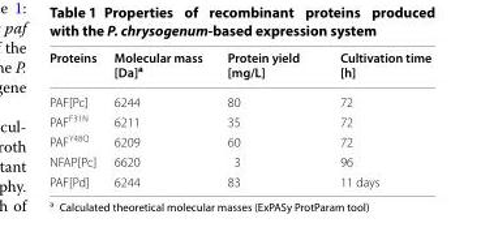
<table><thead><tr><td>Proteins</td><td>Molecular mass [Da]<sup>a</sup></td><td>Protein yield [mg/L]</td><td>Cultivation time [h]</td></tr></thead><tbody><tr><td>PAF[Pc]</td><td>6244</td><td>80</td><td>72</td></tr><tr><td>PAF<sup>F31N</sup></td><td>6211</td><td>35</td><td>72</td></tr><tr><td>PAF<sup>Y48Q</sup></td><td>6209</td><td>60</td><td>72</td></tr><tr><td>NFAP[Pc]</td><td>6620</td><td>3</td><td>96</td></tr><tr><td>PAF[Pd]</td><td>6244</td><td>83</td><td>11 days</td></tr></tbody></table>